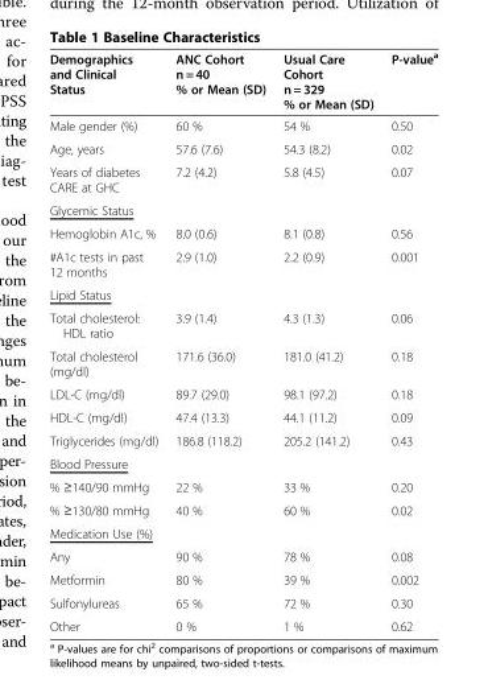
<table><thead><tr><td>Demographics and Clinical Status</td><td>ANC Cohort n = 40 % or Mean (SD)</td><td>Usual Care Cohort n = 329 % or Mean (SD)</td><td>P-value<sup>a</sup></td></tr></thead><tbody><tr><td>Male gender (%)</td><td>60 %</td><td>54 %</td><td>0.50</td></tr><tr><td>Age, years</td><td>57.6 (7.6)</td><td>54.3 (8.2)</td><td>0.02</td></tr><tr><td>Years of diabetes CARE at GHC</td><td>7.2 (4.2)</td><td>5.8 (4.5)</td><td>0.07</td></tr><tr><td colspan="4">Glycemic Status</td></tr><tr><td>Hemoglobin A1c, %</td><td>8.0 (0.6)</td><td>8.1 (0.8)</td><td>0.56</td></tr><tr><td>#A1c tests in past 12 months</td><td>2.9 (1.0)</td><td>2.2 (0.9)</td><td>0.001</td></tr><tr><td colspan="4">Lipid Status</td></tr><tr><td>Total cholesterol: HDL ratio</td><td>3.9 (1.4)</td><td>4.3 (1.3)</td><td>0.06</td></tr><tr><td>Total cholesterol (mg/dl)</td><td>171.6 (36.0)</td><td>181.0 (41.2)</td><td>0.18</td></tr><tr><td>LDL-C (mg/dl)</td><td>89.7 (29.0)</td><td>98.1 (97.2)</td><td>0.18</td></tr><tr><td>HDL-C (mg/dl)</td><td>47.4 (13.3)</td><td>44.1 (11.2)</td><td>0.09</td></tr><tr><td>Triglycerides (mg/dl)</td><td>186.8 (118.2)</td><td>205.2 (141.2)</td><td>0.43</td></tr><tr><td colspan="4">Blood Pressure</td></tr><tr><td>% ≥140/90 mmHg</td><td>22 %</td><td>33 %</td><td>0.20</td></tr><tr><td>% ≥130/80 mmHg</td><td>40 %</td><td>60 %</td><td>0.02</td></tr><tr><td colspan="4">Medication Use (%)</td></tr><tr><td>Any</td><td>90 %</td><td>78 %</td><td>0.08</td></tr><tr><td>Metformin</td><td>80 %</td><td>39 %</td><td>0.002</td></tr><tr><td>Sulfonylureas</td><td>65 %</td><td>72 %</td><td>0.30</td></tr><tr><td>Other</td><td>0 %</td><td>1 %</td><td>0.62</td></tr></tbody></table>